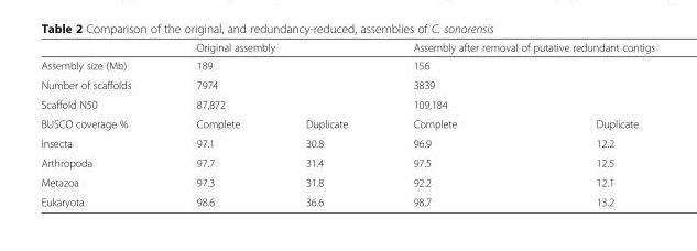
<table><thead><tr><td></td><td colspan="2">Original assembly</td><td colspan="2">Assembly after removal of putative redundant contigs</td></tr></thead><tbody><tr><td>Assembly size (Mb)</td><td colspan="2">189</td><td colspan="2">156</td></tr><tr><td>Number of scaffolds</td><td colspan="2">7974</td><td colspan="2">3839</td></tr><tr><td>Scaffold N50</td><td colspan="2">87,872</td><td colspan="2">109,184</td></tr><tr><td>BUSCO coverage %</td><td>Complete</td><td>Duplicate</td><td>Complete</td><td>Duplicate</td></tr><tr><td>Insecta</td><td>97.1</td><td>30.8</td><td>96.9</td><td>12.2</td></tr><tr><td>Arthropoda</td><td>97.7</td><td>31.4</td><td>97.5</td><td>12.5</td></tr><tr><td>Metazoa</td><td>97.3</td><td>31.8</td><td>92.2</td><td>12.1</td></tr><tr><td>Eukaryota</td><td>98.6</td><td>36.6</td><td>98.7</td><td>13.2</td></tr></tbody></table>